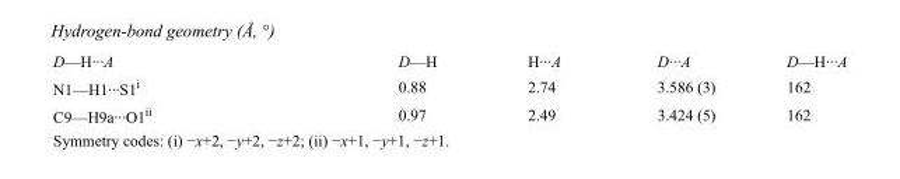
<table><tbody><tr><td>D—H···A</td><td>D—H</td><td>H···A</td><td>D···A</td><td>D—H···A</td></tr><tr><td>N1—H1···S1<sup>i</sup></td><td>0.88</td><td>2.74</td><td>3.586 (3)</td><td>162</td></tr><tr><td>C9—H9a···O1<sup>ii</sup></td><td>0.97</td><td>2.49</td><td>3.424 (5)</td><td>162</td></tr></tbody></table>